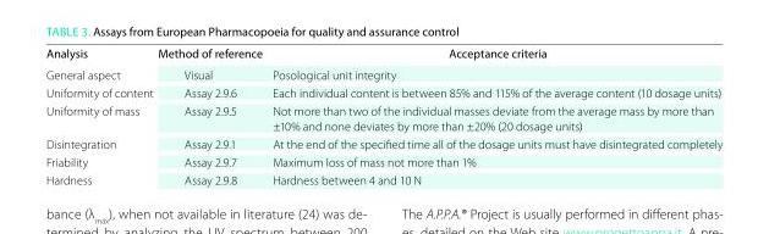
<table><thead><tr><td>Analysis</td><td>Method of reference</td><td>Acceptance criteria</td></tr></thead><tbody><tr><td>General aspect</td><td>Visual</td><td>Posological unit integrity</td></tr><tr><td>Uniformity of content</td><td>Assay 2.9.6</td><td>Each individual content is between 85% and 115% of the average content (10 dosage units)</td></tr><tr><td>Uniformity of mass</td><td>Assay 2.9.5</td><td>Not more than two of the individual masses deviate from the average mass by more than ±10% and none deviates by more than ±20% (20 dosage units)</td></tr><tr><td>Disintegration</td><td>Assay 2.9.1</td><td>At the end of the specified time all of the dosage units must have disintegrated completely</td></tr><tr><td>Friability</td><td>Assay 2.9.7</td><td>Maximum loss of mass not more than 1%</td></tr><tr><td>Hardness</td><td>Assay 2.9.8</td><td>Hardness between 4 and 10 N</td></tr></tbody></table>